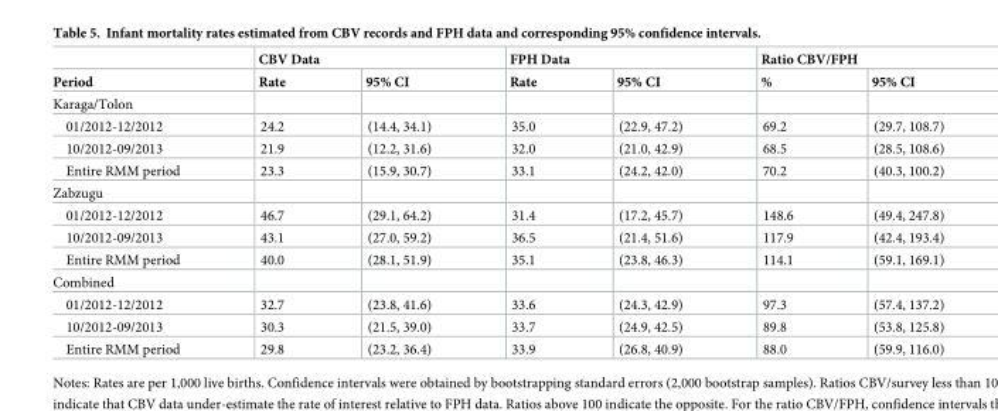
<table><thead><tr><td rowspan="2">Period</td><td colspan="2">CBV Data</td><td colspan="2">FPH Data</td><td colspan="2">Ratio CBV/FPH</td></tr><tr><td>Rate</td><td>95% CI</td><td>Rate</td><td>95% CI</td><td>%</td><td>95% CI</td></tr></thead><tbody><tr><td colspan="7">Karaga/Tolon</td></tr><tr><td>01/2012-12/2012</td><td>24.2</td><td>(14.4, 34.1)</td><td>35.0</td><td>(22.9, 47.2)</td><td>69.2</td><td>(29.7, 108.7)</td></tr><tr><td>10/2012-09/2013</td><td>21.9</td><td>(12.2, 31.6)</td><td>32.0</td><td>(21.0, 42.9)</td><td>68.5</td><td>(28.5, 108.6)</td></tr><tr><td>Entire RMM period</td><td>23.3</td><td>(15.9, 30.7)</td><td>33.1</td><td>(24.2, 42.0)</td><td>70.2</td><td>(40.3, 100.2)</td></tr><tr><td colspan="7">Zabzugu</td></tr><tr><td>01/2012-12/2012</td><td>46.7</td><td>(29.1, 64.2)</td><td>31.4</td><td>(17.2, 45.7)</td><td>148.6</td><td>(49.4, 247.8)</td></tr><tr><td>10/2012-09/2013</td><td>43.1</td><td>(27.0, 59.2)</td><td>36.5</td><td>(21.4, 51.6)</td><td>117.9</td><td>(42.4, 193.4)</td></tr><tr><td>Entire RMM period</td><td>40.0</td><td>(28.1, 51.9)</td><td>35.1</td><td>(23.8, 46.3)</td><td>114.1</td><td>(59.1, 169.1)</td></tr><tr><td colspan="7">Combined</td></tr><tr><td>01/2012-12/2012</td><td>32.7</td><td>(23.8, 41.6)</td><td>33.6</td><td>(24.3, 42.9)</td><td>97.3</td><td>(57.4, 137.2)</td></tr><tr><td>10/2012-09/2013</td><td>30.3</td><td>(21.5, 39.0)</td><td>33.7</td><td>(24.9, 42.5)</td><td>89.8</td><td>(53.8, 125.8)</td></tr><tr><td>Entire RMM period</td><td>29.8</td><td>(23.2, 36.4)</td><td>33.9</td><td>(26.8, 40.9)</td><td>88.0</td><td>(59.9, 116.0)</td></tr></tbody></table>